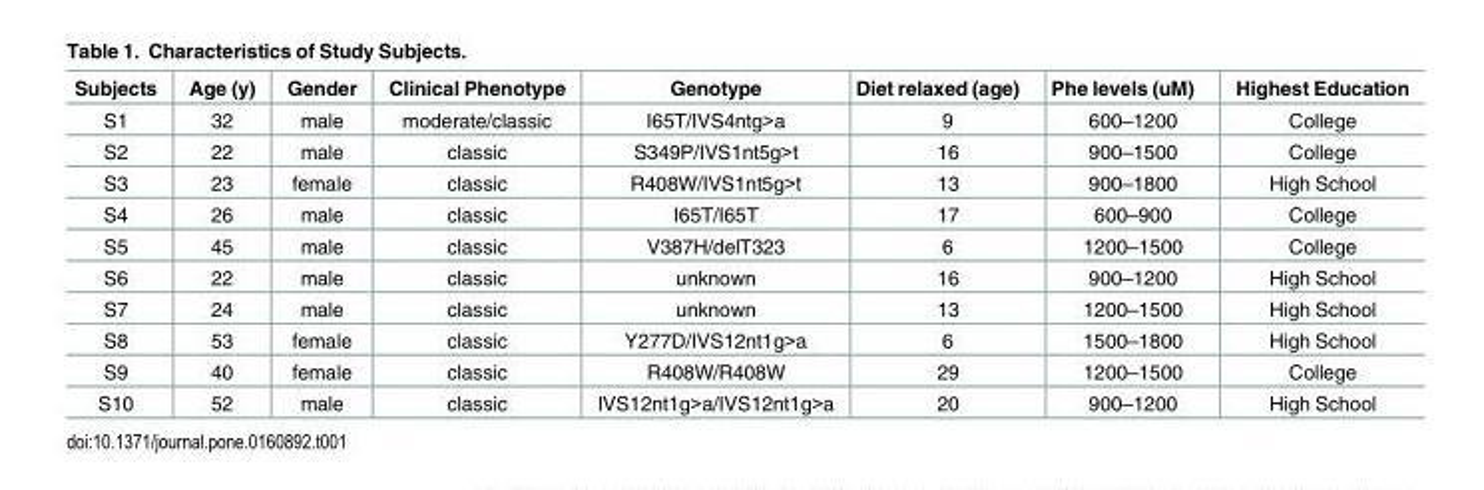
<table><thead><tr><td>Subjects</td><td>Age (y)</td><td>Gender</td><td>Clinical Phenotype</td><td>Genotype</td><td>Diet relaxed (age)</td><td>Phe levels (uM)</td><td>Highest Education</td></tr></thead><tbody><tr><td>S1</td><td>32</td><td>male</td><td>moderate/classic</td><td>I65T/IVS4ntg&gt;a</td><td>9</td><td>600–1200</td><td>College</td></tr><tr><td>S2</td><td>22</td><td>male</td><td>classic</td><td>S349P/IVS1nt5g&gt;t</td><td>16</td><td>900–1500</td><td>College</td></tr><tr><td>S3</td><td>23</td><td>female</td><td>classic</td><td>R408W/IVS1nt5g&gt;t</td><td>13</td><td>900–1800</td><td>High School</td></tr><tr><td>S4</td><td>26</td><td>male</td><td>classic</td><td>I65T/I65T</td><td>17</td><td>600–900</td><td>College</td></tr><tr><td>S5</td><td>45</td><td>male</td><td>classic</td><td>V387H/delT323</td><td>6</td><td>1200–1500</td><td>College</td></tr><tr><td>S6</td><td>22</td><td>male</td><td>classic</td><td>unknown</td><td>16</td><td>900–1200</td><td>High School</td></tr><tr><td>S7</td><td>24</td><td>male</td><td>classic</td><td>unknown</td><td>13</td><td>1200–1500</td><td>High School</td></tr><tr><td>S8</td><td>53</td><td>female</td><td>classic</td><td>Y277D/IVS12nt1g&gt;a</td><td>6</td><td>1500–1800</td><td>High School</td></tr><tr><td>S9</td><td>40</td><td>female</td><td>classic</td><td>R408W/R408W</td><td>29</td><td>1200–1500</td><td>College</td></tr><tr><td>S10</td><td>52</td><td>male</td><td>classic</td><td>IVS12nt1g&gt;a/IVS12nt1g&gt;a</td><td>20</td><td>900–1200</td><td>High School</td></tr></tbody></table>